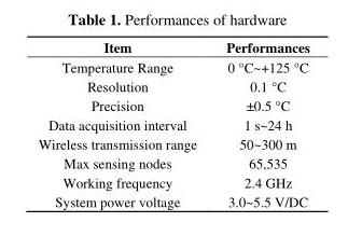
<table><thead><tr><td>Item</td><td>Performances</td></tr></thead><tbody><tr><td>Temperature Range</td><td>0 °C~+125 °C</td></tr><tr><td>Resolution</td><td>0.1 °C</td></tr><tr><td>Precision</td><td>±0.5 °C</td></tr><tr><td>Data acquisition interval</td><td>1 s~24 h</td></tr><tr><td>Wireless transmission range</td><td>50~300 m</td></tr><tr><td>Max sensing nodes</td><td>65,535</td></tr><tr><td>Working frequency</td><td>2.4 GHz</td></tr><tr><td>System power voltage</td><td>3.0~5.5 V/DC</td></tr></tbody></table>